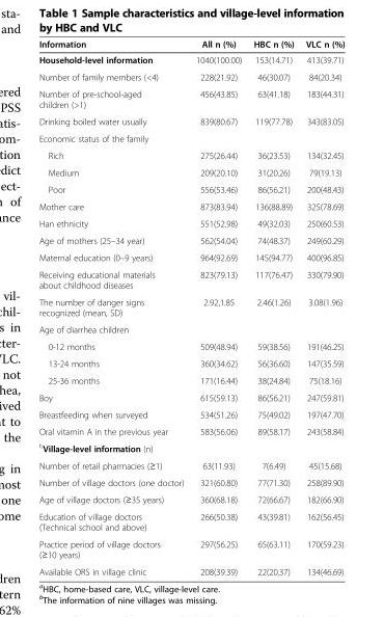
<table><thead><tr><td>Information</td><td>All n (%)</td><td>HBC n (%)</td><td>VLC n (%)</td></tr></thead><tbody><tr><td>Household-level information</td><td>1040(100.00)</td><td>153(14.71)</td><td>413(39.71)</td></tr><tr><td>Number of family members (&lt;4)</td><td>228(21.92)</td><td>46(30.07)</td><td>84(20.34)</td></tr><tr><td>Number of pre-school-aged children (&gt;1)</td><td>456(43.85)</td><td>63(41.18)</td><td>183(44.31)</td></tr><tr><td>Drinking boiled water usually</td><td>839(80.67)</td><td>119(77.78)</td><td>343(83.05)</td></tr><tr><td colspan="4">Economic status of the family</td></tr><tr><td>Rich</td><td>275(26.44)</td><td>36(23.53)</td><td>134(32.45)</td></tr><tr><td>Medium</td><td>209(20.10)</td><td>31(20.26)</td><td>79(19.13)</td></tr><tr><td>Poor</td><td>556(53.46)</td><td>86(56.21)</td><td>200(48.43)</td></tr><tr><td>Mother care</td><td>873(83.94)</td><td>136(88.89)</td><td>325(78.69)</td></tr><tr><td>Han ethnicity</td><td>551(52.98)</td><td>49(32.03)</td><td>250(60.53)</td></tr><tr><td>Age of mothers (25–34 year)</td><td>562(54.04)</td><td>74(48.37)</td><td>249(60.29)</td></tr><tr><td>Maternal education (0–9 years)</td><td>964(92.69)</td><td>145(94.77)</td><td>400(96.85)</td></tr><tr><td>Receiving educational materials about childhood diseases</td><td>823(79.13)</td><td>117(76.47)</td><td>330(79.90)</td></tr><tr><td>The number of danger signs recognized (mean, SD)</td><td>2.92,1.85</td><td>2.46(1.26)</td><td>3.08(1.96)</td></tr><tr><td colspan="4">Age of diarrhea children</td></tr><tr><td>0-12 months</td><td>509(48.94)</td><td>59(38.56)</td><td>191(46.25)</td></tr><tr><td>13-24 months</td><td>360(34.62)</td><td>56(36.60)</td><td>147(35.59)</td></tr><tr><td>25-36 months</td><td>171(16.44)</td><td>38(24.84)</td><td>75(18.16)</td></tr><tr><td>Boy</td><td>615(59.13)</td><td>86(56.21)</td><td>247(59.81)</td></tr><tr><td>Breastfeeding when surveyed</td><td>534(51.26)</td><td>75(49.02)</td><td>197(47.70)</td></tr><tr><td>Oral vitamin A in the previous year</td><td>583(56.06)</td><td>89(58.17)</td><td>243(58.84)</td></tr><tr><td colspan="4"><sup>b</sup>Village-level information (n)</td></tr><tr><td>Number of retail pharmacies (≥1)</td><td>63(11.93)</td><td>7(6.49)</td><td>45(15.68)</td></tr><tr><td>Number of village doctors (one doctor)</td><td>321(60.80)</td><td>77(71.30)</td><td>258(89.90)</td></tr><tr><td>Age of village doctors (≥35 years)</td><td>360(68.18)</td><td>72(66.67)</td><td>182(66.90)</td></tr><tr><td>Education of village doctors (Technical school and above)</td><td>266(50.38)</td><td>43(39.81)</td><td>162(56.45)</td></tr><tr><td>Practice period of village doctors (≥10 years)</td><td>297(56.25)</td><td>65(63.11)</td><td>170(59.23)</td></tr><tr><td>Available ORS in village clinic</td><td>208(39.39)</td><td>22(20.37)</td><td>134(46.69)</td></tr></tbody></table>